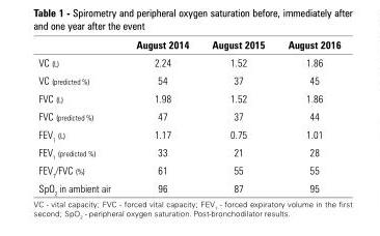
<table><thead><tr><td></td><td>August 2014</td><td>August 2015</td><td>August 2016</td></tr></thead><tbody><tr><td>VC (L)</td><td>2.24</td><td>1.52</td><td>1.86</td></tr><tr><td>VC (predicted %)</td><td>54</td><td>37</td><td>45</td></tr><tr><td>FVC (L)</td><td>1.98</td><td>1.52</td><td>1.86</td></tr><tr><td>FVC (predicted %)</td><td>47</td><td>37</td><td>44</td></tr><tr><td>FEV<sub>1</sub> (L)</td><td>1.17</td><td>0.75</td><td>1.01</td></tr><tr><td>FEV<sub>1</sub> (predicted %)</td><td>33</td><td>21</td><td>28</td></tr><tr><td>FEV<sub>1</sub>/FVC (%)</td><td>61</td><td>55</td><td>55</td></tr><tr><td>SpO<sub>2</sub> in ambient air</td><td>96</td><td>87</td><td>95</td></tr></tbody></table>